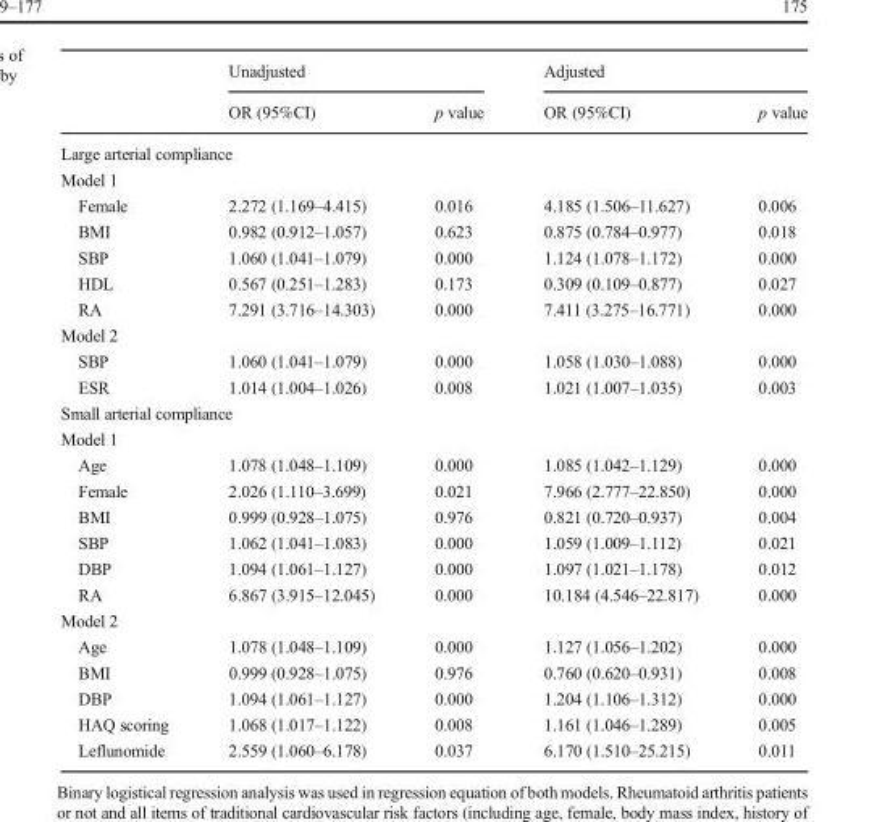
<table><thead><tr><td rowspan="2"></td><td colspan="2">Unadjusted</td><td colspan="2">Adjusted</td></tr><tr><td>OR (95%CI)</td><td>p value</td><td>OR (95%CI)</td><td>p value</td></tr></thead><tbody><tr><td colspan="5">Large arterial compliance</td></tr><tr><td colspan="5">Model 1</td></tr><tr><td>Female</td><td>2.272 (1.169–4.415)</td><td>0.016</td><td>4.185 (1.506–11.627)</td><td>0.006</td></tr><tr><td>BMI</td><td>0.982 (0.912–1.057)</td><td>0.623</td><td>0.875 (0.784–0.977)</td><td>0.018</td></tr><tr><td>SBP</td><td>1.060 (1.041–1.079)</td><td>0.000</td><td>1.124 (1.078–1.172)</td><td>0.000</td></tr><tr><td>HDL</td><td>0.567 (0.251–1.283)</td><td>0.173</td><td>0.309 (0.109–0.877)</td><td>0.027</td></tr><tr><td>RA</td><td>7.291 (3.716–14.303)</td><td>0.000</td><td>7.411 (3.275–16.771)</td><td>0.000</td></tr><tr><td colspan="5">Model 2</td></tr><tr><td>SBP</td><td>1.060 (1.041–1.079)</td><td>0.000</td><td>1.058 (1.030–1.088)</td><td>0.000</td></tr><tr><td>ESR</td><td>1.014 (1.004–1.026)</td><td>0.008</td><td>1.021 (1.007–1.035)</td><td>0.003</td></tr><tr><td colspan="5">Small arterial compliance</td></tr><tr><td colspan="5">Model 1</td></tr><tr><td>Age</td><td>1.078 (1.048–1.109)</td><td>0.000</td><td>1.085 (1.042–1.129)</td><td>0.000</td></tr><tr><td>Female</td><td>2.026 (1.110–3.699)</td><td>0.021</td><td>7.966 (2.777–22.850)</td><td>0.000</td></tr><tr><td>BMI</td><td>0.999 (0.928–1.075)</td><td>0.976</td><td>0.821 (0.720–0.937)</td><td>0.004</td></tr><tr><td>SBP</td><td>1.062 (1.041–1.083)</td><td>0.000</td><td>1.059 (1.009–1.112)</td><td>0.021</td></tr><tr><td>DBP</td><td>1.094 (1.061–1.127)</td><td>0.000</td><td>1.097 (1.021–1.178)</td><td>0.012</td></tr><tr><td>RA</td><td>6.867 (3.915–12.045)</td><td>0.000</td><td>10.184 (4.546–22.817)</td><td>0.000</td></tr><tr><td colspan="5">Model 2</td></tr><tr><td>Age</td><td>1.078 (1.048–1.109)</td><td>0.000</td><td>1.127 (1.056–1.202)</td><td>0.000</td></tr><tr><td>BMI</td><td>0.999 (0.928–1.075)</td><td>0.976</td><td>0.760 (0.620–0.931)</td><td>0.008</td></tr><tr><td>DBP</td><td>1.094 (1.061–1.127)</td><td>0.000</td><td>1.204 (1.106–1.312)</td><td>0.000</td></tr><tr><td>HAQ scoring</td><td>1.068 (1.017–1.122)</td><td>0.008</td><td>1.161 (1.046–1.289)</td><td>0.005</td></tr><tr><td>Leflunomide</td><td>2.559 (1.060–6.178)</td><td>0.037</td><td>6.170 (1.510–25.215)</td><td>0.011</td></tr></tbody></table>